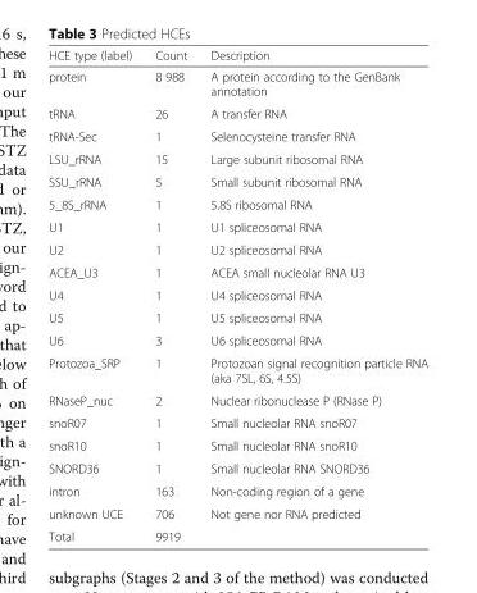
<table><thead><tr><td>HCE type (label)</td><td>Count</td><td>Description</td></tr></thead><tbody><tr><td>protein</td><td>8 988</td><td>A protein according to the GenBank annotation</td></tr><tr><td>tRNA</td><td>26</td><td>A transfer RNA</td></tr><tr><td>tRNA-Sec</td><td>1</td><td>Selenocysteine transfer RNA</td></tr><tr><td>LSU_rRNA</td><td>15</td><td>Large subunit ribosomal RNA</td></tr><tr><td>SSU_rRNA</td><td>5</td><td>Small subunit ribosomal RNA</td></tr><tr><td>5_8S_rRNA</td><td>1</td><td>5.8S ribosomal RNA</td></tr><tr><td>U1</td><td>1</td><td>U1 spliceosomal RNA</td></tr><tr><td>U2</td><td>1</td><td>U2 spliceosomal RNA</td></tr><tr><td>ACEA_U3</td><td>1</td><td>ACEA small nucleolar RNA U3</td></tr><tr><td>U4</td><td>1</td><td>U4 spliceosomal RNA</td></tr><tr><td>U5</td><td>1</td><td>U5 spliceosomal RNA</td></tr><tr><td>U6</td><td>3</td><td>U6 spliceosomal RNA</td></tr><tr><td>Protozoa_SRP</td><td>1</td><td>Protozoan signal recognition particle RNA (aka 7SL, 6S, 4.5S)</td></tr><tr><td>RNaseP_nuc</td><td>2</td><td>Nuclear ribonuclease P (RNase P)</td></tr><tr><td>snoR07</td><td>1</td><td>Small nucleolar RNA snoR07</td></tr><tr><td>snoR10</td><td>1</td><td>Small nucleolar RNA snoR10</td></tr><tr><td>SNORD36</td><td>1</td><td>Small nucleolar RNA SNORD36</td></tr><tr><td>intron</td><td>163</td><td>Non-coding region of a gene</td></tr><tr><td>unknown UCE</td><td>706</td><td>Not gene nor RNA predicted</td></tr><tr><td>Total</td><td>9919</td><td></td></tr></tbody></table>